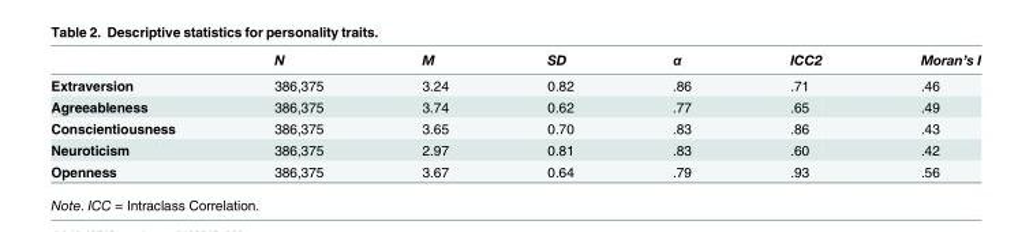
<table><thead><tr><td></td><td>N</td><td>M</td><td>SD</td><td>α</td><td>ICC2</td><td>Moran’s I</td></tr></thead><tbody><tr><td>Extraversion</td><td>386,375</td><td>3.24</td><td>0.82</td><td>.86</td><td>.71</td><td>.46</td></tr><tr><td>Agreeableness</td><td>386,375</td><td>3.74</td><td>0.62</td><td>.77</td><td>.65</td><td>.49</td></tr><tr><td>Conscientiousness</td><td>386,375</td><td>3.65</td><td>0.70</td><td>.83</td><td>.86</td><td>.43</td></tr><tr><td>Neuroticism</td><td>386,375</td><td>2.97</td><td>0.81</td><td>.83</td><td>.60</td><td>.42</td></tr><tr><td>Openness</td><td>386,375</td><td>3.67</td><td>0.64</td><td>.79</td><td>.93</td><td>.56</td></tr></tbody></table>